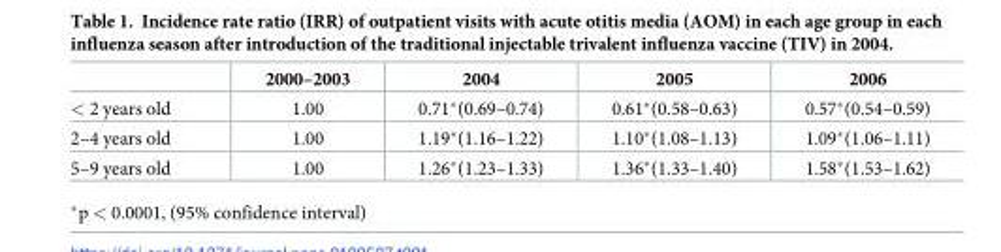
<table><thead><tr><td></td><td>2000–2003</td><td>2004</td><td>2005</td><td>2006</td></tr></thead><tbody><tr><td>&lt; 2 years old</td><td>1.00</td><td>0.71*(0.69–0.74)</td><td>0.61*(0.58–0.63)</td><td>0.57*(0.54–0.59)</td></tr><tr><td>2–4 years old</td><td>1.00</td><td>1.19*(1.16–1.22)</td><td>1.10*(1.08–1.13)</td><td>1.09*(1.06–1.11)</td></tr><tr><td>5–9 years old</td><td>1.00</td><td>1.26*(1.23–1.33)</td><td>1.36*(1.33–1.40)</td><td>1.58*(1.53–1.62)</td></tr></tbody></table>